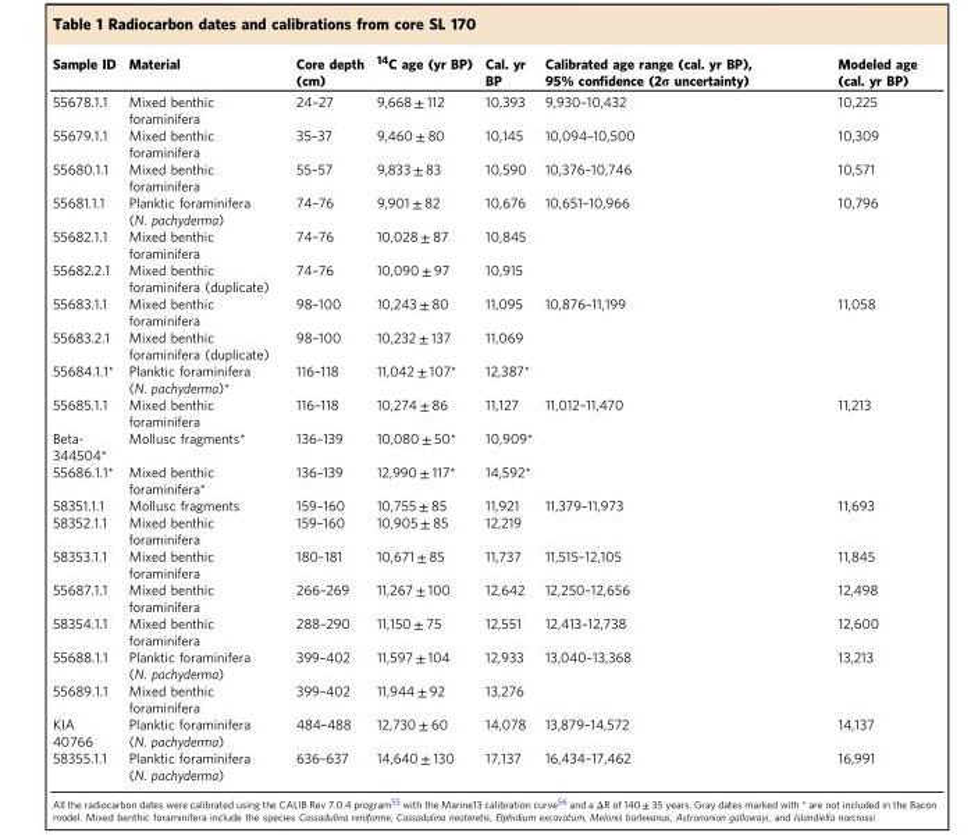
<table><thead><tr><td>Sample ID</td><td>Material</td><td>Core depth (cm)</td><td><sup>14</sup>C age (yr BP)</td><td>Cal. yr BP</td><td>Calibrated age range (cal. yr BP), 95% confidence (2σ uncertainty)</td><td>Modeled age (cal. yr BP)</td></tr></thead><tbody><tr><td>55678.1.1</td><td>Mixed benthic foraminifera</td><td>24–27</td><td>9,668 ± 112</td><td>10,393</td><td>9,930–10,432</td><td>10,225</td></tr><tr><td>55679.1.1</td><td>Mixed benthic foraminifera</td><td>35–37</td><td>9,460 ± 80</td><td>10,145</td><td>10,094–10,500</td><td>10,309</td></tr><tr><td>55680.1.1</td><td>Mixed benthic foraminifera</td><td>55–57</td><td>9,833 ± 83</td><td>10,590</td><td>10,376–10,746</td><td>10,571</td></tr><tr><td>55681.1.1</td><td>Planktic foraminifera (N. pachyderma)</td><td>74–76</td><td>9,901 ± 82</td><td>10,676</td><td rowspan="3">10,651–10,966</td><td rowspan="3">10,796</td></tr><tr><td>55682.1.1</td><td>Mixed benthic foraminifera</td><td>74–76</td><td>10,028 ± 87</td><td>10,845</td></tr><tr><td>55682.2.1</td><td>Mixed benthic foraminifera (duplicate)</td><td>74–76</td><td>10,090 ± 97</td><td>10,915</td></tr><tr><td>55683.1.1</td><td>Mixed benthic foraminifera</td><td>98–100</td><td>10,243 ± 80</td><td>11,095</td><td rowspan="2">10,876–11,199</td><td rowspan="2">11,058</td></tr><tr><td>55683.2.1</td><td>Mixed benthic foraminifera (duplicate)</td><td>98–100</td><td>10,232 ± 137</td><td>11,069</td></tr><tr><td>55684.1.1*</td><td>Planktic foraminifera (N. pachyderma)*</td><td>116–118</td><td>11,042 ± 107*</td><td>12,387*</td><td></td><td></td></tr><tr><td>55685.1.1</td><td>Mixed benthic foraminifera</td><td>116–118</td><td>10,274 ± 86</td><td>11,127</td><td>11,012–11,470</td><td>11,213</td></tr><tr><td>Beta- 344504*</td><td>Mollusc fragments*</td><td>136–139</td><td>10,080 ± 50*</td><td>10,909*</td><td rowspan="2"></td><td rowspan="2"></td></tr><tr><td>55686.1.1*</td><td>Mixed benthic foraminifera*</td><td>136–139</td><td>12,990 ± 117*</td><td>14,592*</td></tr><tr><td>58351.1.1</td><td>Mollusc fragments</td><td>159–160</td><td>10,755 ± 85</td><td>11,921</td><td rowspan="2">11,379–11,973</td><td rowspan="2">11,693</td></tr><tr><td>58352.1.1</td><td>Mixed benthic foraminifera</td><td>159–160</td><td>10,905 ± 85</td><td>12,219</td></tr><tr><td>58353.1.1</td><td>Mixed benthic foraminifera</td><td>180–181</td><td>10,671 ± 85</td><td>11,737</td><td>11,515–12,105</td><td>11,845</td></tr><tr><td>55687.1.1</td><td>Mixed benthic foraminifera</td><td>266–269</td><td>11,267 ± 100</td><td>12,642</td><td>12,250–12,656</td><td>12,498</td></tr><tr><td>58354.1.1</td><td>Mixed benthic foraminifera</td><td>288–290</td><td>11,150 ± 75</td><td>12,551</td><td>12,413–12,738</td><td>12,600</td></tr><tr><td>55688.1.1</td><td>Planktic foraminifera (N. pachyderma)</td><td>399–402</td><td>11,597 ± 104</td><td>12,933</td><td rowspan="2">13,040–13,368</td><td rowspan="2">13,213</td></tr><tr><td>55689.1.1</td><td>Mixed benthic foraminifera</td><td>399–402</td><td>11,944 ± 92</td><td>13,276</td></tr><tr><td>KIA 40766</td><td>Planktic foraminifera (N. pachyderma)</td><td>484–488</td><td>12,730 ± 60</td><td>14,078</td><td>13,879–14,572</td><td>14,137</td></tr><tr><td>58355.1.1</td><td>Planktic foraminifera (N. pachyderma)</td><td>636–637</td><td>14,640 ± 130</td><td>17,137</td><td>16,434–17,462</td><td>16,991</td></tr></tbody></table>